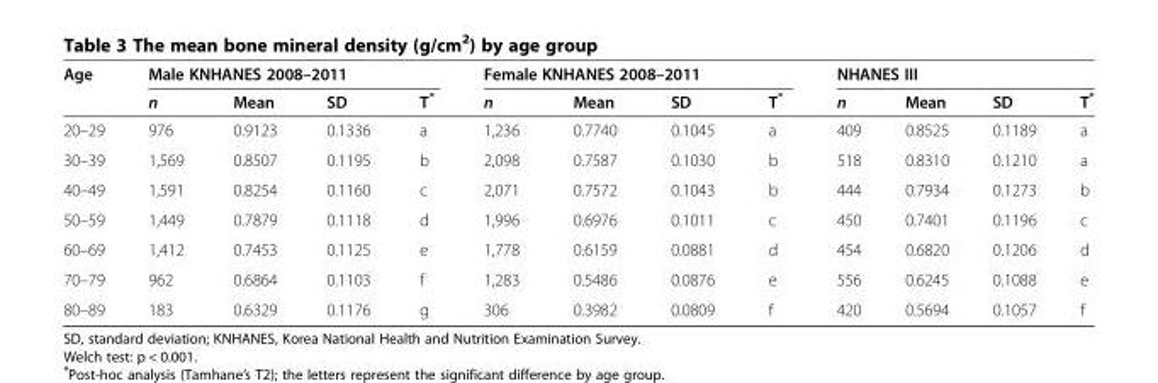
<table><thead><tr><td rowspan="2">Age</td><td colspan="4">Male KNHANES 2008–2011</td><td colspan="4">Female KNHANES 2008–2011</td><td colspan="4">NHANES III</td></tr><tr><td>n</td><td>Mean</td><td>SD</td><td>T*</td><td>n</td><td>Mean</td><td>SD</td><td>T*</td><td>n</td><td>Mean</td><td>SD</td><td>T*</td></tr></thead><tbody><tr><td>20–29</td><td>976</td><td>0.9123</td><td>0.1336</td><td>a</td><td>1,236</td><td>0.7740</td><td>0.1045</td><td>a</td><td>409</td><td>0.8525</td><td>0.1189</td><td>a</td></tr><tr><td>30–39</td><td>1,569</td><td>0.8507</td><td>0.1195</td><td>b</td><td>2,098</td><td>0.7587</td><td>0.1030</td><td>b</td><td>518</td><td>0.8310</td><td>0.1210</td><td>a</td></tr><tr><td>40–49</td><td>1,591</td><td>0.8254</td><td>0.1160</td><td>c</td><td>2,071</td><td>0.7572</td><td>0.1043</td><td>b</td><td>444</td><td>0.7934</td><td>0.1273</td><td>b</td></tr><tr><td>50–59</td><td>1,449</td><td>0.7879</td><td>0.1118</td><td>d</td><td>1,996</td><td>0.6976</td><td>0.1011</td><td>c</td><td>450</td><td>0.7401</td><td>0.1196</td><td>c</td></tr><tr><td>60–69</td><td>1,412</td><td>0.7453</td><td>0.1125</td><td>e</td><td>1,778</td><td>0.6159</td><td>0.0881</td><td>d</td><td>454</td><td>0.6820</td><td>0.1206</td><td>d</td></tr><tr><td>70–79</td><td>962</td><td>0.6864</td><td>0.1103</td><td>f</td><td>1,283</td><td>0.5486</td><td>0.0876</td><td>e</td><td>556</td><td>0.6245</td><td>0.1088</td><td>e</td></tr><tr><td>80–89</td><td>183</td><td>0.6329</td><td>0.1176</td><td>g</td><td>306</td><td>0.3982</td><td>0.0809</td><td>f</td><td>420</td><td>0.5694</td><td>0.1057</td><td>f</td></tr></tbody></table>